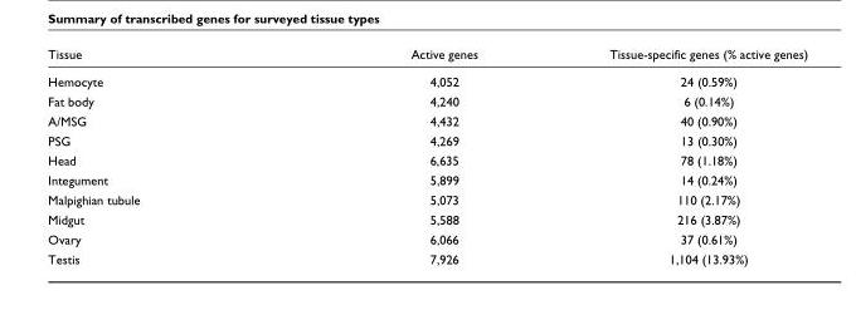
<table><thead><tr><td>Tissue</td><td>Active genes</td><td>Tissue-specific genes (% active genes)</td></tr></thead><tbody><tr><td>Hemocyte</td><td>4,052</td><td>24 (0.59%)</td></tr><tr><td>Fat body</td><td>4,240</td><td>6 (0.14%)</td></tr><tr><td>A/MSG</td><td>4,432</td><td>40 (0.90%)</td></tr><tr><td>PSG</td><td>4,269</td><td>13 (0.30%)</td></tr><tr><td>Head</td><td>6,635</td><td>78 (1.18%)</td></tr><tr><td>Integument</td><td>5,899</td><td>14 (0.24%)</td></tr><tr><td>Malpighian tubule</td><td>5,073</td><td>110 (2.17%)</td></tr><tr><td>Midgut</td><td>5,588</td><td>216 (3.87%)</td></tr><tr><td>Ovary</td><td>6,066</td><td>37 (0.61%)</td></tr><tr><td>Testis</td><td>7,926</td><td>1,104 (13.93%)</td></tr></tbody></table>